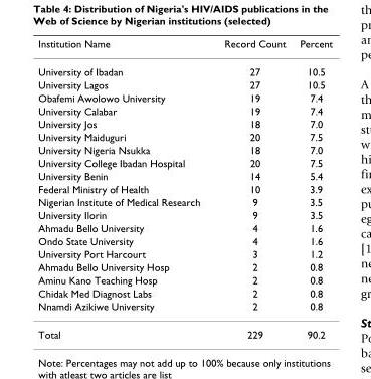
<table><thead><tr><td>Institution Name</td><td>Record Count</td><td>Percent</td></tr></thead><tbody><tr><td>University of Ibadan</td><td>27</td><td>10.5</td></tr><tr><td>University Lagos</td><td>27</td><td>10.5</td></tr><tr><td>Obafemi Awolowo University</td><td>19</td><td>7.4</td></tr><tr><td>University Calabar</td><td>19</td><td>7.4</td></tr><tr><td>University Jos</td><td>18</td><td>7.0</td></tr><tr><td>University Maiduguri</td><td>20</td><td>7.5</td></tr><tr><td>University Nigeria Nsukka</td><td>18</td><td>7.0</td></tr><tr><td>University College Ibadan Hospital</td><td>20</td><td>7.5</td></tr><tr><td>University Benin</td><td>14</td><td>5.4</td></tr><tr><td>Federal Ministry of Health</td><td>10</td><td>3.9</td></tr><tr><td>Nigerian Institute of Medical Research</td><td>9</td><td>3.5</td></tr><tr><td>University Ilorin</td><td>9</td><td>3.5</td></tr><tr><td>Ahmadu Bello University</td><td>4</td><td>1.6</td></tr><tr><td>Ondo State University</td><td>4</td><td>1.6</td></tr><tr><td>University Port Harcourt</td><td>3</td><td>1.2</td></tr><tr><td>Ahmadu Bello University Hosp</td><td>2</td><td>0.8</td></tr><tr><td>Aminu Kano Teaching Hosp</td><td>2</td><td>0.8</td></tr><tr><td>Chidak Med Diagnost Labs</td><td>2</td><td>0.8</td></tr><tr><td>Nnamdi Azikiwe University</td><td>2</td><td>0.8</td></tr><tr><td>Total</td><td>229</td><td>90.2</td></tr></tbody></table>